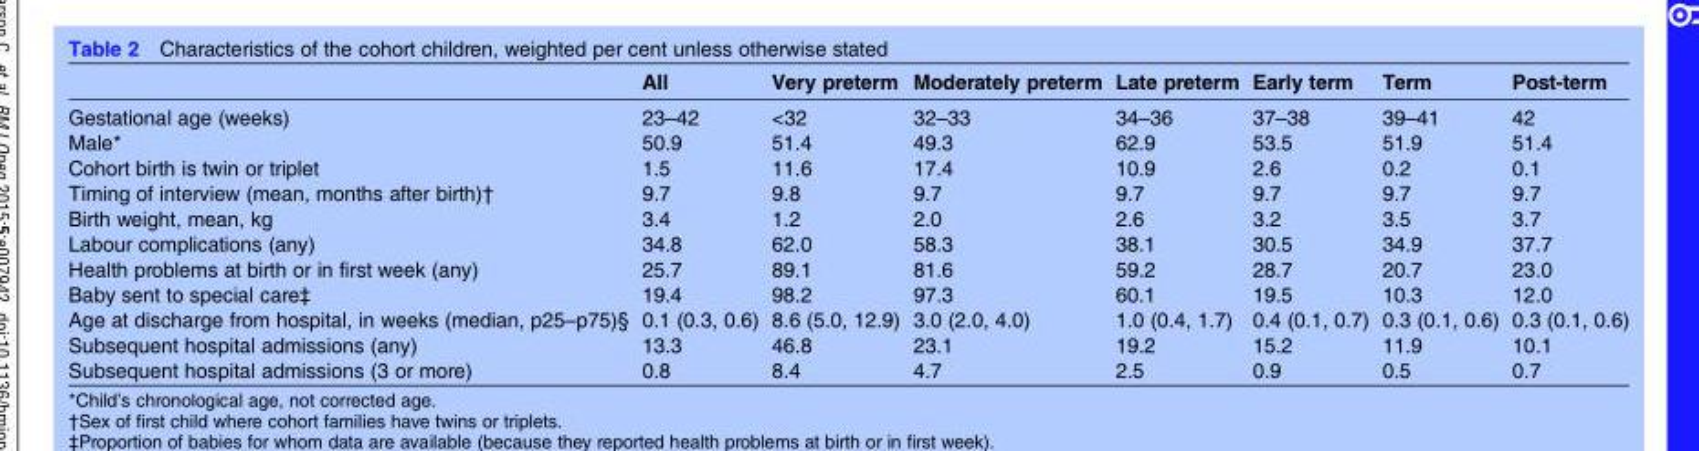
<table><thead><tr><td></td><td>All</td><td>Very preterm</td><td>Moderately preterm</td><td>Late preterm</td><td>Early term</td><td>Term</td><td>Post-term</td></tr></thead><tbody><tr><td>Gestational age (weeks)</td><td>23–42</td><td>&lt;32</td><td>32–33</td><td>34–36</td><td>37–38</td><td>39–41</td><td>42</td></tr><tr><td>Male*</td><td>50.9</td><td>51.4</td><td>49.3</td><td>62.9</td><td>53.5</td><td>51.9</td><td>51.4</td></tr><tr><td>Cohort birth is twin or triplet</td><td>1.5</td><td>11.6</td><td>17.4</td><td>10.9</td><td>2.6</td><td>0.2</td><td>0.1</td></tr><tr><td>Timing of interview (mean, months after birth)†</td><td>9.7</td><td>9.8</td><td>9.7</td><td>9.7</td><td>9.7</td><td>9.7</td><td>9.7</td></tr><tr><td>Birth weight, mean, kg</td><td>3.4</td><td>1.2</td><td>2.0</td><td>2.6</td><td>3.2</td><td>3.5</td><td>3.7</td></tr><tr><td>Labour complications (any)</td><td>34.8</td><td>62.0</td><td>58.3</td><td>38.1</td><td>30.5</td><td>34.9</td><td>37.7</td></tr><tr><td>Health problems at birth or in first week (any)</td><td>25.7</td><td>89.1</td><td>81.6</td><td>59.2</td><td>28.7</td><td>20.7</td><td>23.0</td></tr><tr><td>Baby sent to special care‡</td><td>19.4</td><td>98.2</td><td>97.3</td><td>60.1</td><td>19.5</td><td>10.3</td><td>12.0</td></tr><tr><td>Age at discharge from hospital, in weeks (median, p25–p75)§</td><td>0.1 (0.3, 0.6)</td><td>8.6 (5.0, 12.9)</td><td>3.0 (2.0, 4.0)</td><td>1.0 (0.4, 1.7)</td><td>0.4 (0.1, 0.7)</td><td>0.3 (0.1, 0.6)</td><td>0.3 (0.1, 0.6)</td></tr><tr><td>Subsequent hospital admissions (any)</td><td>13.3</td><td>46.8</td><td>23.1</td><td>19.2</td><td>15.2</td><td>11.9</td><td>10.1</td></tr><tr><td>Subsequent hospital admissions (3 or more)</td><td>0.8</td><td>8.4</td><td>4.7</td><td>2.5</td><td>0.9</td><td>0.5</td><td>0.7</td></tr></tbody></table>